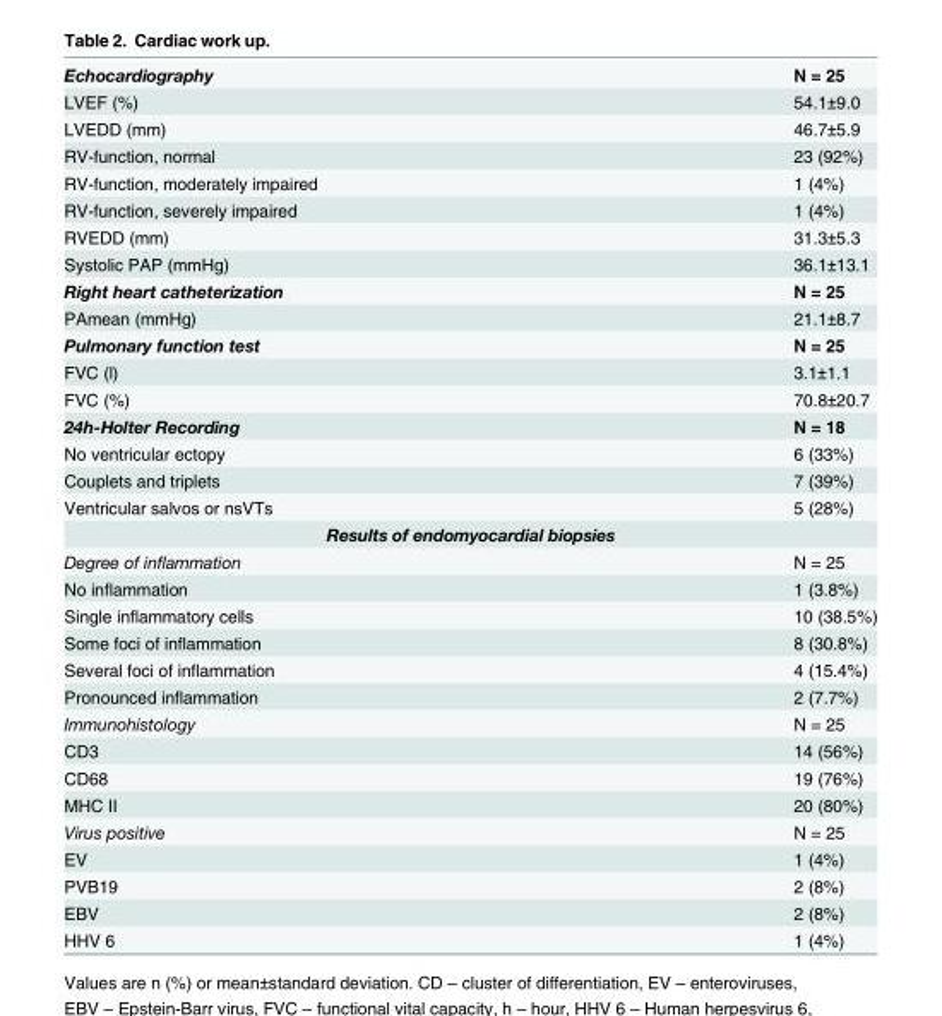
<table><tbody><tr><td>Echocardiography</td><td>N = 25</td></tr><tr><td>LVEF (%)</td><td>54.1±9.0</td></tr><tr><td>LVEDD (mm)</td><td>46.7±5.9</td></tr><tr><td>RV-function, normal</td><td>23 (92%)</td></tr><tr><td>RV-function, moderately impaired</td><td>1 (4%)</td></tr><tr><td>RV-function, severely impaired</td><td>1 (4%)</td></tr><tr><td>RVEDD (mm)</td><td>31.3±5.3</td></tr><tr><td>Systolic PAP (mmHg)</td><td>36.1±13.1</td></tr><tr><td>Right heart catheterization</td><td>N = 25</td></tr><tr><td>PAmean (mmHg)</td><td>21.1±8.7</td></tr><tr><td>Pulmonary function test</td><td>N = 25</td></tr><tr><td>FVC (l)</td><td>3.1±1.1</td></tr><tr><td>FVC (%)</td><td>70.8±20.7</td></tr><tr><td>24h-Holter Recording</td><td>N = 18</td></tr><tr><td>No ventricular ectopy</td><td>6 (33%)</td></tr><tr><td>Couplets and triplets</td><td>7 (39%)</td></tr><tr><td>Ventricular salvos or nsVTs</td><td>5 (28%)</td></tr><tr><td colspan="2">Results of endomyocardial biopsies</td></tr><tr><td>Degree of inflammation</td><td>N = 25</td></tr><tr><td>No inflammation</td><td>1 (3.8%)</td></tr><tr><td>Single inflammatory cells</td><td>10 (38.5%)</td></tr><tr><td>Some foci of inflammation</td><td>8 (30.8%)</td></tr><tr><td>Several foci of inflammation</td><td>4 (15.4%)</td></tr><tr><td>Pronounced inflammation</td><td>2 (7.7%)</td></tr><tr><td>Immunohistology</td><td>N = 25</td></tr><tr><td>CD3</td><td>14 (56%)</td></tr><tr><td>CD68</td><td>19 (76%)</td></tr><tr><td>MHC II</td><td>20 (80%)</td></tr><tr><td>Virus positive</td><td>N = 25</td></tr><tr><td>EV</td><td>1 (4%)</td></tr><tr><td>PVB19</td><td>2 (8%)</td></tr><tr><td>EBV</td><td>2 (8%)</td></tr><tr><td>HHV 6</td><td>1 (4%)</td></tr></tbody></table>